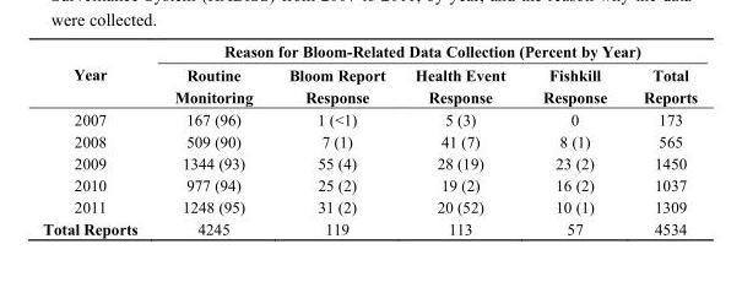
<table><thead><tr><td rowspan="2">Year</td><td colspan="5">Reason for Bloom-Related Data Collection (Percent by Year)</td></tr><tr><td>Routine Monitoring</td><td>Bloom Report Response</td><td>Health Event Response</td><td>Fishkill Response</td><td>Total Reports</td></tr></thead><tbody><tr><td>2007</td><td>167 (96)</td><td>1 (&lt;1)</td><td>5 (3)</td><td>0</td><td>173</td></tr><tr><td>2008</td><td>509 (90)</td><td>7 (1)</td><td>41 (7)</td><td>8 (1)</td><td>565</td></tr><tr><td>2009</td><td>1344 (93)</td><td>55 (4)</td><td>28 (19)</td><td>23 (2)</td><td>1450</td></tr><tr><td>2010</td><td>977 (94)</td><td>25 (2)</td><td>19 (2)</td><td>16 (2)</td><td>1037</td></tr><tr><td>2011</td><td>1248 (95)</td><td>31 (2)</td><td>20 (52)</td><td>10 (1)</td><td>1309</td></tr><tr><td>Total Reports</td><td>4245</td><td>119</td><td>113</td><td>57</td><td>4534</td></tr></tbody></table>